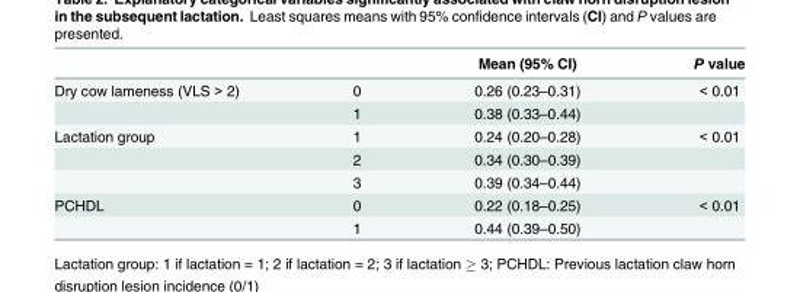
<table><thead><tr><td></td><td></td><td>Mean (95% CI)</td><td>P value</td></tr></thead><tbody><tr><td rowspan="2">Dry cow lameness (VLS &gt; 2)</td><td>0</td><td>0.26 (0.23–0.31)</td><td>&lt; 0.01</td></tr><tr><td>1</td><td>0.38 (0.33–0.44)</td><td></td></tr><tr><td rowspan="3">Lactation group</td><td>1</td><td>0.24 (0.20–0.28)</td><td>&lt; 0.01</td></tr><tr><td>2</td><td>0.34 (0.30–0.39)</td><td></td></tr><tr><td>3</td><td>0.39 (0.34–0.44)</td><td></td></tr><tr><td rowspan="2">PCHDL</td><td>0</td><td>0.22 (0.18–0.25)</td><td>&lt; 0.01</td></tr><tr><td>1</td><td>0.44 (0.39–0.50)</td><td></td></tr></tbody></table>